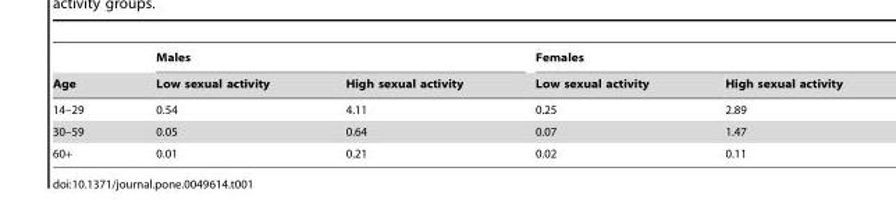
<table><thead><tr><td rowspan="2">Age</td><td colspan="2">Males</td><td colspan="2">Females</td></tr><tr><td>Low sexual activity</td><td>High sexual activity</td><td>Low sexual activity</td><td>High sexual activity</td></tr></thead><tbody><tr><td>14–29</td><td>0.54</td><td>4.11</td><td>0.25</td><td>2.89</td></tr><tr><td>30–59</td><td>0.05</td><td>0.64</td><td>0.07</td><td>1.47</td></tr><tr><td>60+</td><td>0.01</td><td>0.21</td><td>0.02</td><td>0.11</td></tr></tbody></table>